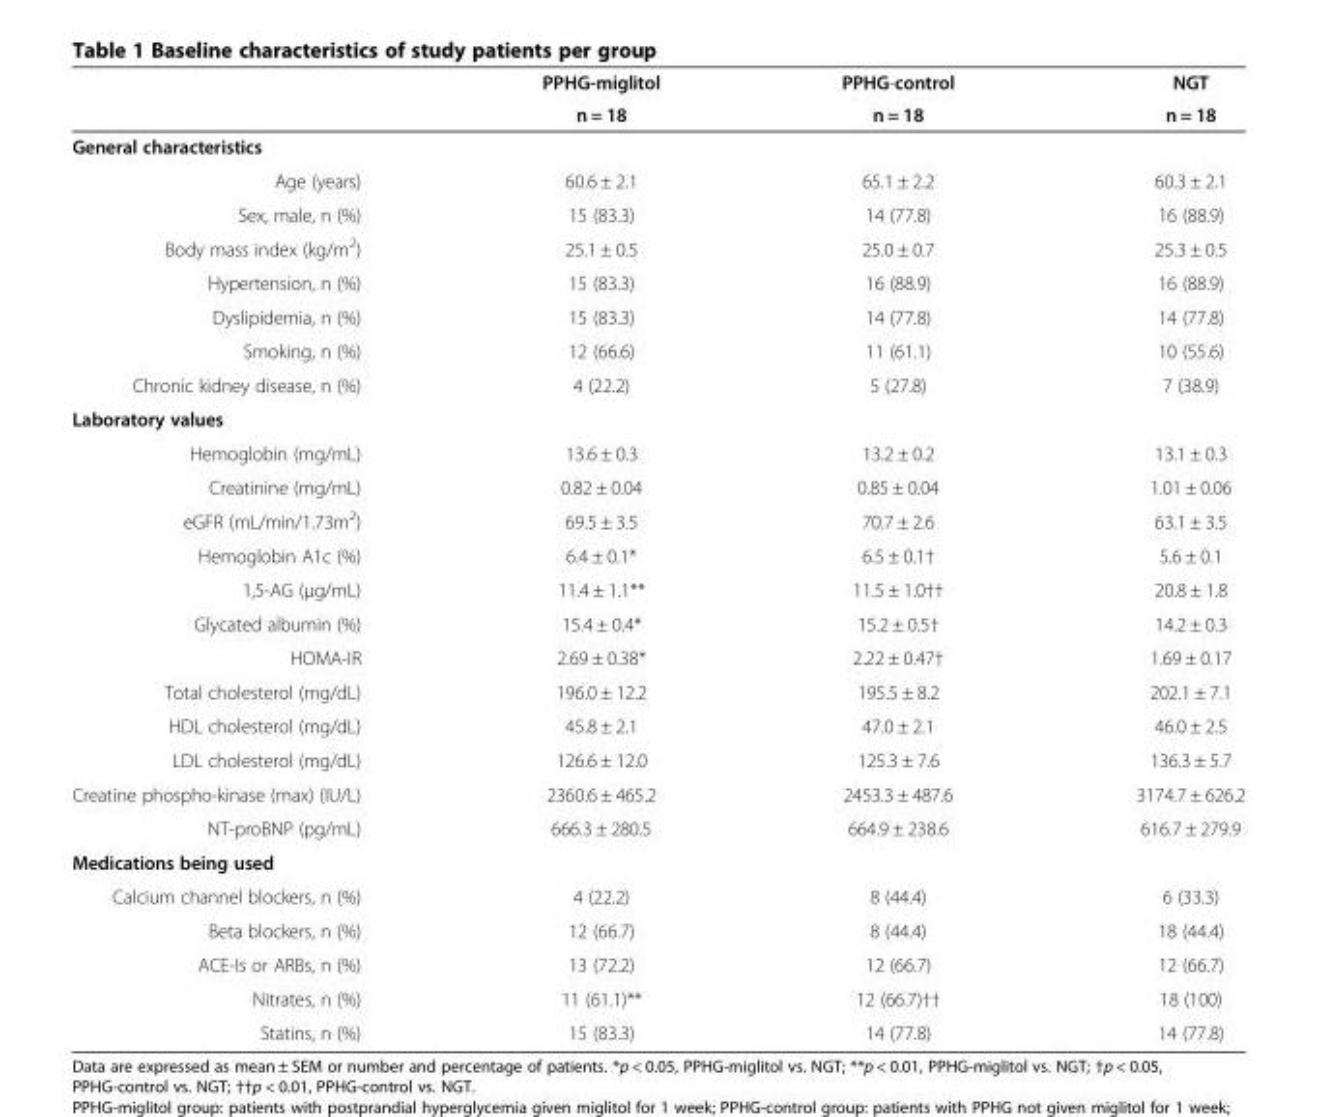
<table><thead><tr><td rowspan="2"></td><td rowspan="2">PPHG-miglitol n = 18</td><td rowspan="2">PPHG-control n = 18</td><td rowspan="2">NGT n = 18</td></tr><tr></tr></thead><tbody><tr><td colspan="4">General characteristics</td></tr><tr><td>Age (years)</td><td>60.6 ± 2.1</td><td>65.1 ± 2.2</td><td>60.3 ± 2.1</td></tr><tr><td>Sex, male, n (%)</td><td>15 (83.3)</td><td>14 (77.8)</td><td>16 (88.9)</td></tr><tr><td>Body mass index (kg/m<sup>2</sup>)</td><td>25.1 ± 0.5</td><td>25.0 ± 0.7</td><td>25.3 ± 0.5</td></tr><tr><td>Hypertension, n (%)</td><td>15 (83.3)</td><td>16 (88.9)</td><td>16 (88.9)</td></tr><tr><td>Dyslipidemia, n (%)</td><td>15 (83.3)</td><td>14 (77.8)</td><td>14 (77.8)</td></tr><tr><td>Smoking, n (%)</td><td>12 (66.6)</td><td>11 (61.1)</td><td>10 (55.6)</td></tr><tr><td>Chronic kidney disease, n (%)</td><td>4 (22.2)</td><td>5 (27.8)</td><td>7 (38.9)</td></tr><tr><td colspan="4">Laboratory values</td></tr><tr><td>Hemoglobin (mg/mL)</td><td>13.6 ± 0.3</td><td>13.2 ± 0.2</td><td>13.1 ± 0.3</td></tr><tr><td>Creatinine (mg/mL)</td><td>0.82 ± 0.04</td><td>0.85 ± 0.04</td><td>1.01 ± 0.06</td></tr><tr><td>eGFR (mL/min/1.73m<sup>2</sup>)</td><td>69.5 ± 3.5</td><td>70.7 ± 2.6</td><td>63.1 ± 3.5</td></tr><tr><td>Hemoglobin A1c (%)</td><td>6.4 ± 0.1*</td><td>6.5 ± 0.1†</td><td>5.6 ± 0.1</td></tr><tr><td>1,5-AG (μg/mL)</td><td>11.4 ± 1.1**</td><td>11.5 ± 1.0††</td><td>20.8 ± 1.8</td></tr><tr><td>Glycated albumin (%)</td><td>15.4 ± 0.4*</td><td>15.2 ± 0.5†</td><td>14.2 ± 0.3</td></tr><tr><td>HOMA-IR</td><td>2.69 ± 0.38*</td><td>2.22 ± 0.47†</td><td>1.69 ± 0.17</td></tr><tr><td>Total cholesterol (mg/dL)</td><td>196.0 ± 12.2</td><td>195.5 ± 8.2</td><td>202.1 ± 7.1</td></tr><tr><td>HDL cholesterol (mg/dL)</td><td>45.8 ± 2.1</td><td>47.0 ± 2.1</td><td>46.0 ± 2.5</td></tr><tr><td>LDL cholesterol (mg/dL)</td><td>126.6 ± 12.0</td><td>125.3 ± 7.6</td><td>136.3 ± 5.7</td></tr><tr><td>Creatine phospho-kinase (max) (IU/L)</td><td>2360.6 ± 465.2</td><td>2453.3 ± 487.6</td><td>3174.7 ± 626.2</td></tr><tr><td>NT-proBNP (pg/mL)</td><td>666.3 ± 280.5</td><td>664.9 ± 238.6</td><td>616.7 ± 279.9</td></tr><tr><td colspan="4">Medications being used</td></tr><tr><td>Calcium channel blockers, n (%)</td><td>4 (22.2)</td><td>8 (44.4)</td><td>6 (33.3)</td></tr><tr><td>Beta blockers, n (%)</td><td>12 (66.7)</td><td>8 (44.4)</td><td>18 (44.4)</td></tr><tr><td>ACE-Is or ARBs, n (%)</td><td>13 (72.2)</td><td>12 (66.7)</td><td>12 (66.7)</td></tr><tr><td>Nitrates, n (%)</td><td>11 (61.1)**</td><td>12 (66.7)††</td><td>18 (100)</td></tr><tr><td>Statins, n (%)</td><td>15 (83.3)</td><td>14 (77.8)</td><td>14 (77.8)</td></tr></tbody></table>